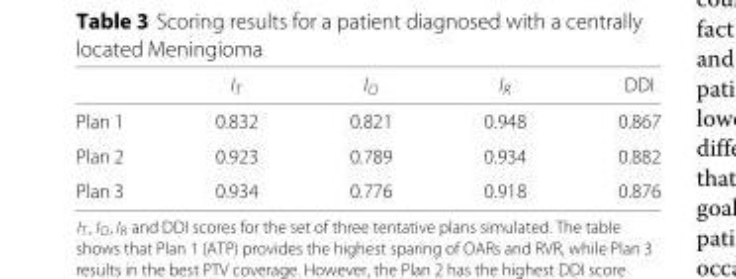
<table><thead><tr><td></td><td>I<sub>T</sub></td><td>I<sub>O</sub></td><td>I<sub>R</sub></td><td>DDI</td></tr></thead><tbody><tr><td>Plan 1</td><td>0.832</td><td>0.821</td><td>0.948</td><td>0.867</td></tr><tr><td>Plan 2</td><td>0.923</td><td>0.789</td><td>0.934</td><td>0.882</td></tr><tr><td>Plan 3</td><td>0.934</td><td>0.776</td><td>0.918</td><td>0.876</td></tr></tbody></table>